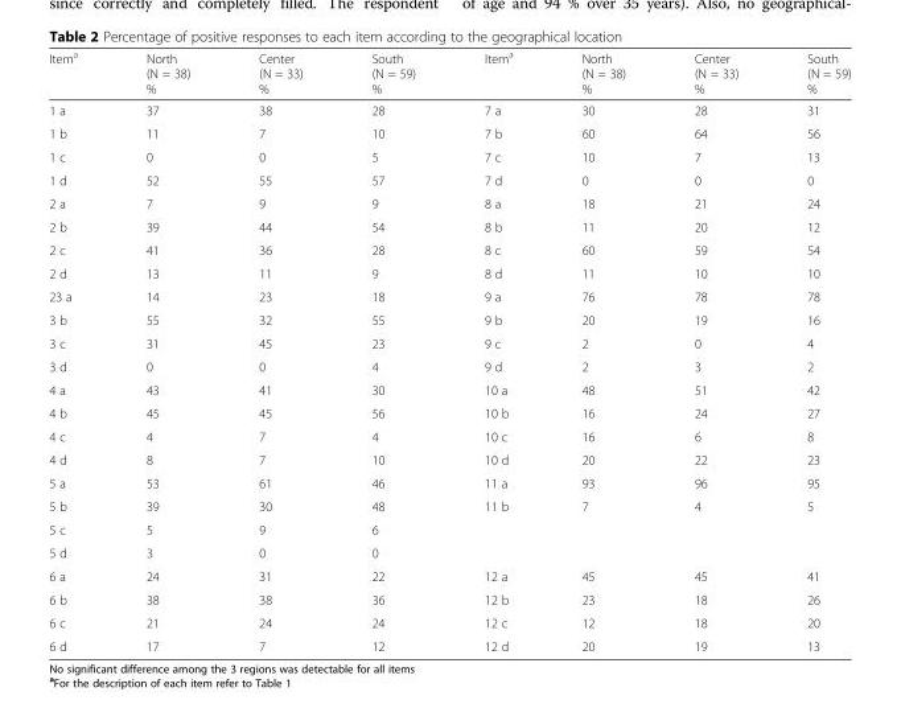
<table><thead><tr><td rowspan="3">Item<sup>a</sup></td><td rowspan="3">North (N = 38) %</td><td rowspan="3">Center (N = 33) %</td><td rowspan="3">South (N = 59) %</td><td rowspan="3">Item<sup>a</sup></td><td rowspan="3">North (N = 38) %</td><td rowspan="3">Center (N = 33) %</td><td rowspan="3">South (N = 59) %</td></tr><tr></tr><tr></tr></thead><tbody><tr><td>1 a</td><td>37</td><td>38</td><td>28</td><td>7 a</td><td>30</td><td>28</td><td>31</td></tr><tr><td>1 b</td><td>11</td><td>7</td><td>10</td><td>7 b</td><td>60</td><td>64</td><td>56</td></tr><tr><td>1 c</td><td>0</td><td>0</td><td>5</td><td>7 c</td><td>10</td><td>7</td><td>13</td></tr><tr><td>1 d</td><td>52</td><td>55</td><td>57</td><td>7 d</td><td>0</td><td>0</td><td>0</td></tr><tr><td>2 a</td><td>7</td><td>9</td><td>9</td><td>8 a</td><td>18</td><td>21</td><td>24</td></tr><tr><td>2 b</td><td>39</td><td>44</td><td>54</td><td>8 b</td><td>11</td><td>20</td><td>12</td></tr><tr><td>2 c</td><td>41</td><td>36</td><td>28</td><td>8 c</td><td>60</td><td>59</td><td>54</td></tr><tr><td>2 d</td><td>13</td><td>11</td><td>9</td><td>8 d</td><td>11</td><td>10</td><td>10</td></tr><tr><td>23 a</td><td>14</td><td>23</td><td>18</td><td>9 a</td><td>76</td><td>78</td><td>78</td></tr><tr><td>3 b</td><td>55</td><td>32</td><td>55</td><td>9 b</td><td>20</td><td>19</td><td>16</td></tr><tr><td>3 c</td><td>31</td><td>45</td><td>23</td><td>9 c</td><td>2</td><td>0</td><td>4</td></tr><tr><td>3 d</td><td>0</td><td>0</td><td>4</td><td>9 d</td><td>2</td><td>3</td><td>2</td></tr><tr><td>4 a</td><td>43</td><td>41</td><td>30</td><td>10 a</td><td>48</td><td>51</td><td>42</td></tr><tr><td>4 b</td><td>45</td><td>45</td><td>56</td><td>10 b</td><td>16</td><td>24</td><td>27</td></tr><tr><td>4 c</td><td>4</td><td>7</td><td>4</td><td>10 c</td><td>16</td><td>6</td><td>8</td></tr><tr><td>4 d</td><td>8</td><td>7</td><td>10</td><td>10 d</td><td>20</td><td>22</td><td>23</td></tr><tr><td>5 a</td><td>53</td><td>61</td><td>46</td><td>11 a</td><td>93</td><td>96</td><td>95</td></tr><tr><td>5 b</td><td>39</td><td>30</td><td>48</td><td>11 b</td><td>7</td><td>4</td><td>5</td></tr><tr><td>5 c</td><td>5</td><td>9</td><td>6</td><td></td><td></td><td></td><td></td></tr><tr><td>5 d</td><td>3</td><td>0</td><td>0</td><td></td><td></td><td></td><td></td></tr><tr><td>6 a</td><td>24</td><td>31</td><td>22</td><td>12 a</td><td>45</td><td>45</td><td>41</td></tr><tr><td>6 b</td><td>38</td><td>38</td><td>36</td><td>12 b</td><td>23</td><td>18</td><td>26</td></tr><tr><td>6 c</td><td>21</td><td>24</td><td>24</td><td>12 c</td><td>12</td><td>18</td><td>20</td></tr><tr><td>6 d</td><td>17</td><td>7</td><td>12</td><td>12 d</td><td>20</td><td>19</td><td>13</td></tr></tbody></table>